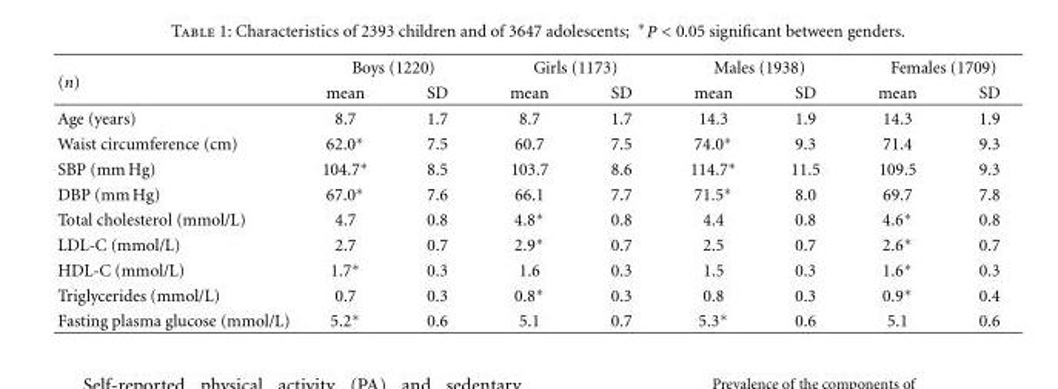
<table><thead><tr><td rowspan="2">(n)</td><td colspan="2">Boys (1220)</td><td colspan="2">Girls (1173)</td><td colspan="2">Males (1938)</td><td colspan="2">Females (1709)</td></tr><tr><td>mean</td><td>SD</td><td>mean</td><td>SD</td><td>mean</td><td>SD</td><td>mean</td><td>SD</td></tr></thead><tbody><tr><td>Age (years)</td><td>8.7</td><td>1.7</td><td>8.7</td><td>1.7</td><td>14.3</td><td>1.9</td><td>14.3</td><td>1.9</td></tr><tr><td>Waist circumference (cm)</td><td>62.0∗</td><td>7.5</td><td>60.7</td><td>7.5</td><td>74.0∗</td><td>9.3</td><td>71.4</td><td>9.3</td></tr><tr><td>SBP (mm Hg)</td><td>104.7∗</td><td>8.5</td><td>103.7</td><td>8.6</td><td>114.7∗</td><td>11.5</td><td>109.5</td><td>9.3</td></tr><tr><td>DBP (mm Hg)</td><td>67.0∗</td><td>7.6</td><td>66.1</td><td>7.7</td><td>71.5∗</td><td>8.0</td><td>69.7</td><td>7.8</td></tr><tr><td>Total cholesterol (mmol/L)</td><td>4.7</td><td>0.8</td><td>4.8∗</td><td>0.8</td><td>4.4</td><td>0.8</td><td>4.6∗</td><td>0.8</td></tr><tr><td>LDL-C (mmol/L)</td><td>2.7</td><td>0.7</td><td>2.9∗</td><td>0.7</td><td>2.5</td><td>0.7</td><td>2.6∗</td><td>0.7</td></tr><tr><td>HDL-C (mmol/L)</td><td>1.7∗</td><td>0.3</td><td>1.6</td><td>0.3</td><td>1.5</td><td>0.3</td><td>1.6∗</td><td>0.3</td></tr><tr><td>Triglycerides (mmol/L)</td><td>0.7</td><td>0.3</td><td>0.8∗</td><td>0.3</td><td>0.8</td><td>0.3</td><td>0.9∗</td><td>0.4</td></tr><tr><td>Fasting plasma glucose (mmol/L)</td><td>5.2∗</td><td>0.6</td><td>5.1</td><td>0.7</td><td>5.3∗</td><td>0.6</td><td>5.1</td><td>0.6</td></tr></tbody></table>